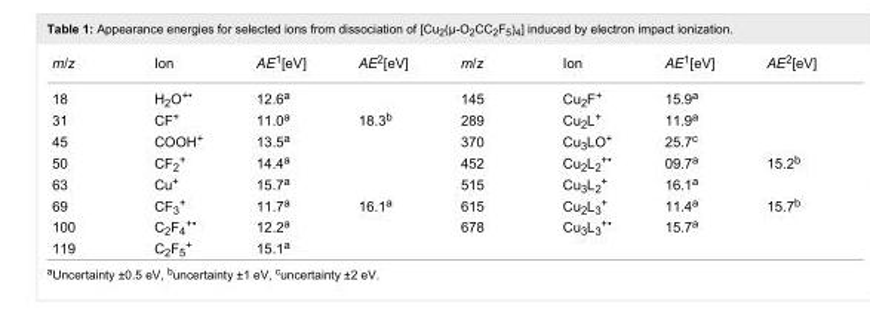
<table><tbody><tr><td>m/z</td><td>Ion</td><td>AE1[eV]</td><td>AE2[eV]</td><td>m/z</td><td>Ion</td><td>AE1[eV]</td><td>AE2[eV]</td></tr><tr><td>18</td><td>H<sub>2</sub>O<sup>+•</sup></td><td>12.6<sup>a</sup></td><td></td><td>145</td><td>Cu<sub>2</sub>F<sup>+</sup></td><td>15.9<sup>a</sup></td><td></td></tr><tr><td>31</td><td>CF<sup>+</sup></td><td>11.0<sup>a</sup></td><td>18.3<sup>b</sup></td><td>289</td><td>Cu<sub>2</sub>L<sup>+</sup></td><td>11.9<sup>a</sup></td><td></td></tr><tr><td>45</td><td>COOH<sup>+</sup></td><td>13.5<sup>a</sup></td><td></td><td>370</td><td>Cu<sub>3</sub>LO<sup>+</sup></td><td>25.7<sup>c</sup></td><td></td></tr><tr><td>50</td><td>CF<sub>2</sub><sup>+</sup></td><td>14.4<sup>a</sup></td><td></td><td>452</td><td>Cu<sub>2</sub>L<sub>2</sub><sup>+•</sup></td><td>09.7<sup>a</sup></td><td>15.2<sup>b</sup></td></tr><tr><td>63</td><td>Cu<sup>+</sup></td><td>15.7<sup>a</sup></td><td></td><td>515</td><td>Cu<sub>3</sub>L<sub>2</sub><sup>+</sup></td><td>16.1<sup>a</sup></td><td></td></tr><tr><td>69</td><td>CF<sub>3</sub><sup>+</sup></td><td>11.7<sup>a</sup></td><td>16.1<sup>a</sup></td><td>615</td><td>Cu<sub>2</sub>L<sub>3</sub><sup>+</sup></td><td>11.4<sup>a</sup></td><td>15.7<sup>b</sup></td></tr><tr><td>100</td><td>C<sub>2</sub>F<sub>4</sub><sup>+•</sup></td><td>12.2<sup>a</sup></td><td></td><td>678</td><td>Cu<sub>3</sub>L<sub>3</sub><sup>+•</sup></td><td>15.7<sup>a</sup></td><td></td></tr><tr><td>119</td><td>C<sub>2</sub>F<sub>5</sub><sup>+</sup></td><td>15.1<sup>a</sup></td><td></td><td></td><td></td><td></td><td></td></tr></tbody></table>